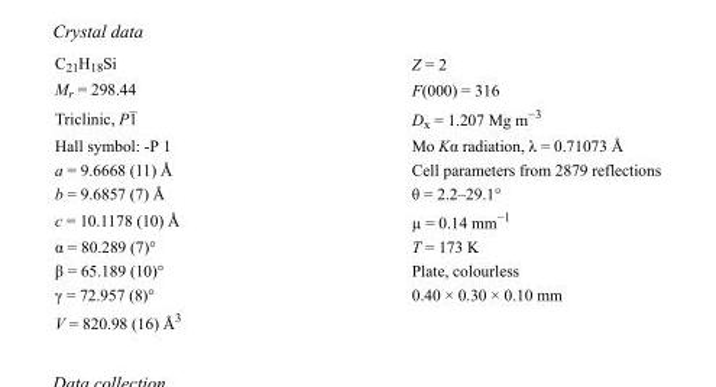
<table><tbody><tr><td>C<sub>21</sub>H<sub>18</sub>Si</td><td>Z = 2</td></tr><tr><td>M<sub>r</sub> = 298.44</td><td>F(000) = 316</td></tr><tr><td>Triclinic, P1</td><td>D<sub>x</sub> = 1.207 Mg m<sup>−3</sup></td></tr><tr><td>Hall symbol: -P 1</td><td>Mo Kα radiation, λ = 0.71073 Å</td></tr><tr><td>a = 9.6668 (11) Å</td><td>Cell parameters from 2879 reflections</td></tr><tr><td>b = 9.6857 (7) Å</td><td>θ = 2.2–29.1°</td></tr><tr><td>c = 10.1178 (10) Å</td><td>µ = 0.14 mm<sup>−1</sup></td></tr><tr><td>α = 80.289 (7)°</td><td>T = 173 K</td></tr><tr><td>β = 65.189 (10)°</td><td>Plate, colourless</td></tr><tr><td>γ = 72.957 (8)°</td><td>0.40 × 0.30 × 0.10 mm</td></tr><tr><td>V = 820.98 (16) Å<sup>3</sup></td><td></td></tr></tbody></table>